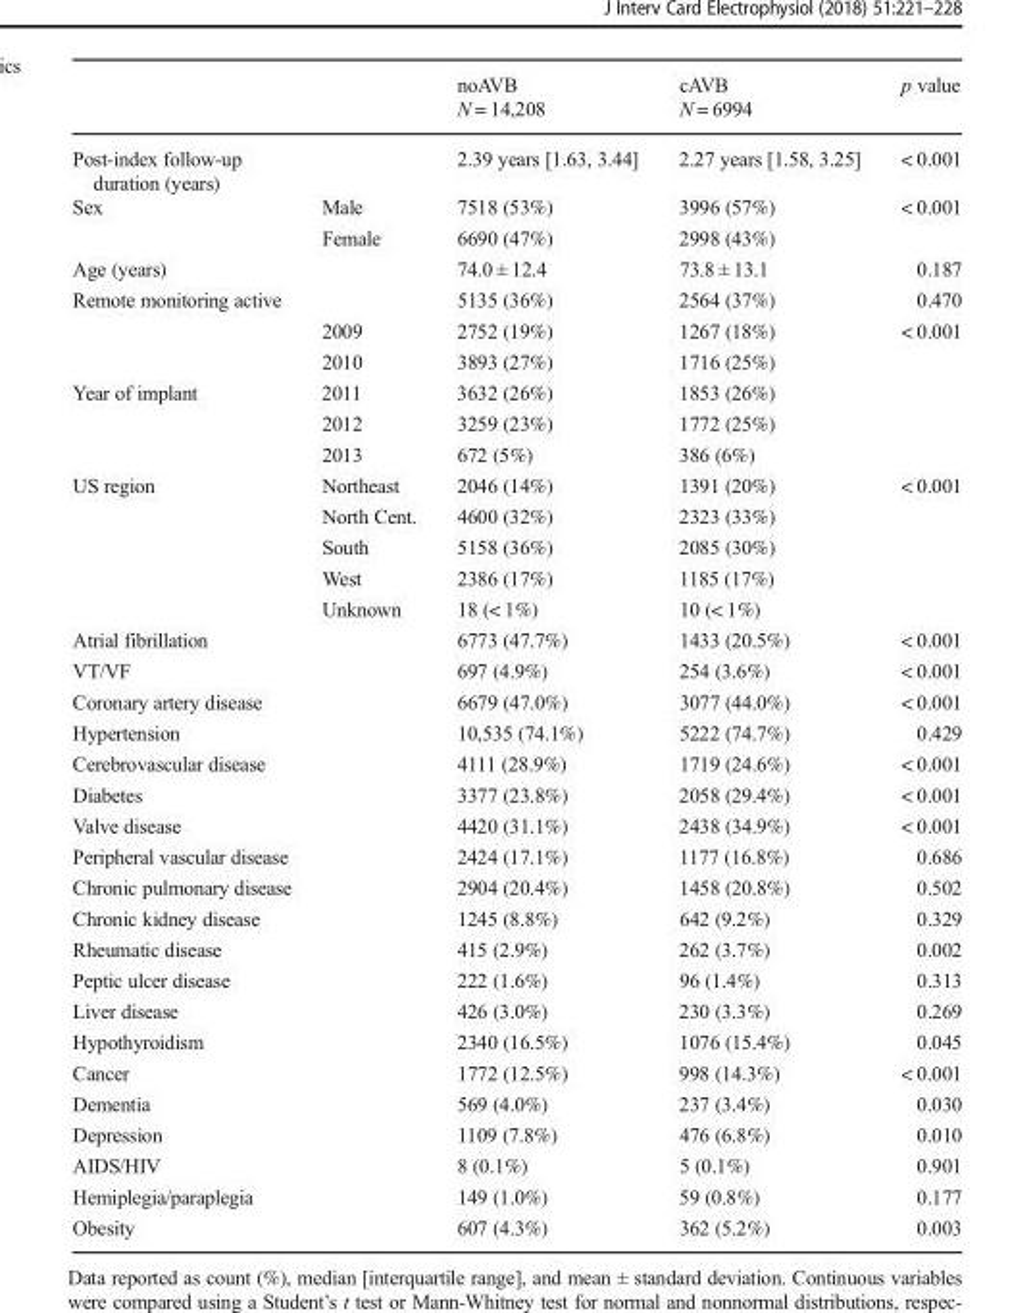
<table><thead><tr><td rowspan="2"></td><td rowspan="2"></td><td rowspan="2">noAVB N = 14,208</td><td rowspan="2">cAVB N = 6994</td><td rowspan="2">p value</td></tr><tr></tr></thead><tbody><tr><td>Post-index follow-up duration (years)</td><td></td><td>2.39 years [1.63, 3.44]</td><td>2.27 years [1.58, 3.25]</td><td>&lt; 0.001</td></tr><tr><td rowspan="2">Sex</td><td>Male</td><td>7518 (53%)</td><td>3996 (57%)</td><td>&lt; 0.001</td></tr><tr><td>Female</td><td>6690 (47%)</td><td>2998 (43%)</td><td></td></tr><tr><td>Age (years)</td><td></td><td>74.0 ± 12.4</td><td>73.8 ± 13.1</td><td>0.187</td></tr><tr><td rowspan="3">Remote monitoring active</td><td></td><td>5135 (36%)</td><td>2564 (37%)</td><td>0.470</td></tr><tr><td>2009</td><td>2752 (19%)</td><td>1267 (18%)</td><td>&lt; 0.001</td></tr><tr><td>2010</td><td>3893 (27%)</td><td>1716 (25%)</td><td></td></tr><tr><td rowspan="3">Year of implant</td><td>2011</td><td>3632 (26%)</td><td>1853 (26%)</td><td></td></tr><tr><td>2012</td><td>3259 (23%)</td><td>1772 (25%)</td><td></td></tr><tr><td>2013</td><td>672 (5%)</td><td>386 (6%)</td><td></td></tr><tr><td rowspan="5">US region</td><td>Northeast</td><td>2046 (14%)</td><td>1391 (20%)</td><td>&lt; 0.001</td></tr><tr><td>North Cent.</td><td>4600 (32%)</td><td>2323 (33%)</td><td></td></tr><tr><td>South</td><td>5158 (36%)</td><td>2085 (30%)</td><td></td></tr><tr><td>West</td><td>2386 (17%)</td><td>1185 (17%)</td><td></td></tr><tr><td>Unknown</td><td>18 (&lt; 1%)</td><td>10 (&lt; 1%)</td><td></td></tr><tr><td colspan="2">Atrial fibrillation</td><td>6773 (47.7%)</td><td>1433 (20.5%)</td><td>&lt; 0.001</td></tr><tr><td colspan="2">VT/VF</td><td>697 (4.9%)</td><td>254 (3.6%)</td><td>&lt; 0.001</td></tr><tr><td colspan="2">Coronary artery disease</td><td>6679 (47.0%)</td><td>3077 (44.0%)</td><td>&lt; 0.001</td></tr><tr><td colspan="2">Hypertension</td><td>10,535 (74.1%)</td><td>5222 (74.7%)</td><td>0.429</td></tr><tr><td colspan="2">Cerebrovascular disease</td><td>4111 (28.9%)</td><td>1719 (24.6%)</td><td>&lt; 0.001</td></tr><tr><td colspan="2">Diabetes</td><td>3377 (23.8%)</td><td>2058 (29.4%)</td><td>&lt; 0.001</td></tr><tr><td colspan="2">Valve disease</td><td>4420 (31.1%)</td><td>2438 (34.9%)</td><td>&lt; 0.001</td></tr><tr><td colspan="2">Peripheral vascular disease</td><td>2424 (17.1%)</td><td>1177 (16.8%)</td><td>0.686</td></tr><tr><td colspan="2">Chronic pulmonary disease</td><td>2904 (20.4%)</td><td>1458 (20.8%)</td><td>0.502</td></tr><tr><td colspan="2">Chronic kidney disease</td><td>1245 (8.8%)</td><td>642 (9.2%)</td><td>0.329</td></tr><tr><td colspan="2">Rheumatic disease</td><td>415 (2.9%)</td><td>262 (3.7%)</td><td>0.002</td></tr><tr><td colspan="2">Peptic ulcer disease</td><td>222 (1.6%)</td><td>96 (1.4%)</td><td>0.313</td></tr><tr><td colspan="2">Liver disease</td><td>426 (3.0%)</td><td>230 (3.3%)</td><td>0.269</td></tr><tr><td colspan="2">Hypothyroidism</td><td>2340 (16.5%)</td><td>1076 (15.4%)</td><td>0.045</td></tr><tr><td colspan="2">Cancer</td><td>1772 (12.5%)</td><td>998 (14.3%)</td><td>&lt; 0.001</td></tr><tr><td colspan="2">Dementia</td><td>569 (4.0%)</td><td>237 (3.4%)</td><td>0.030</td></tr><tr><td colspan="2">Depression</td><td>1109 (7.8%)</td><td>476 (6.8%)</td><td>0.010</td></tr><tr><td colspan="2">AIDS/HIV</td><td>8 (0.1%)</td><td>5 (0.1%)</td><td>0.901</td></tr><tr><td colspan="2">Hemiplegia/paraplegia</td><td>149 (1.0%)</td><td>59 (0.8%)</td><td>0.177</td></tr><tr><td colspan="2">Obesity</td><td>607 (4.3%)</td><td>362 (5.2%)</td><td>0.003</td></tr></tbody></table>